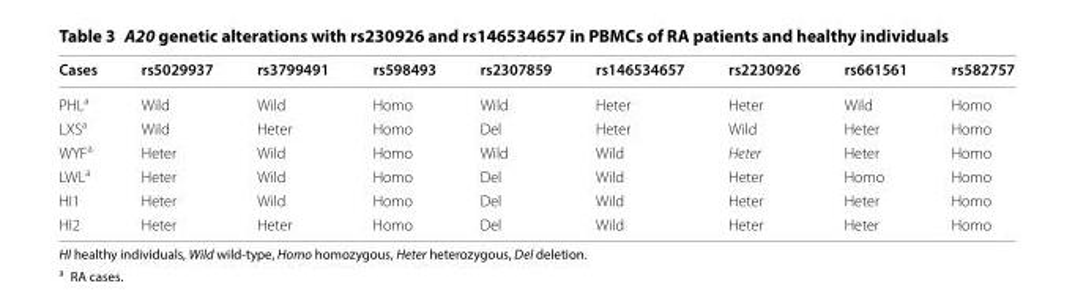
<table><thead><tr><td>Cases</td><td>rs5029937</td><td>rs3799491</td><td>rs598493</td><td>rs2307859</td><td>rs146534657</td><td>rs2230926</td><td>rs661561</td><td>rs582757</td></tr></thead><tbody><tr><td>PHL<sup>a</sup></td><td>Wild</td><td>Wild</td><td>Homo</td><td>Wild</td><td>Heter</td><td>Heter</td><td>Wild</td><td>Homo</td></tr><tr><td>LXS<sup>a</sup></td><td>Wild</td><td>Heter</td><td>Homo</td><td>Del</td><td>Heter</td><td>Wild</td><td>Heter</td><td>Homo</td></tr><tr><td>WYF<sup>a</sup></td><td>Heter</td><td>Wild</td><td>Homo</td><td>Wild</td><td>Wild</td><td>Heter</td><td>Heter</td><td>Homo</td></tr><tr><td>LWL<sup>a</sup></td><td>Heter</td><td>Wild</td><td>Homo</td><td>Del</td><td>Wild</td><td>Heter</td><td>Homo</td><td>Homo</td></tr><tr><td>HI1</td><td>Heter</td><td>Wild</td><td>Homo</td><td>Del</td><td>Wild</td><td>Heter</td><td>Heter</td><td>Homo</td></tr><tr><td>HI2</td><td>Heter</td><td>Heter</td><td>Homo</td><td>Del</td><td>Wild</td><td>Heter</td><td>Heter</td><td>Homo</td></tr></tbody></table>